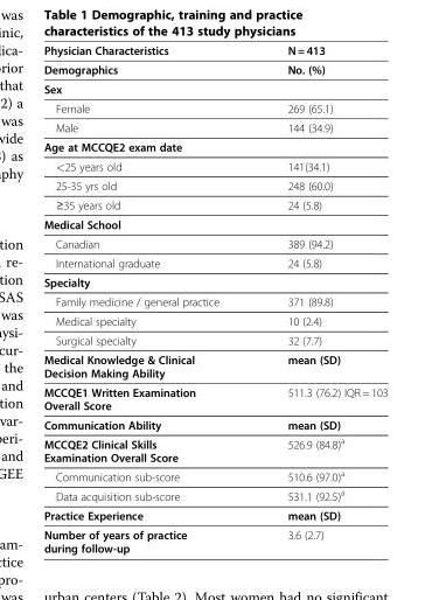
<table><thead><tr><td>Physician Characteristics</td><td>N = 413</td></tr></thead><tbody><tr><td>Demographics</td><td>No. (%)</td></tr><tr><td colspan="2">Sex</td></tr><tr><td>Female</td><td>269 (65.1)</td></tr><tr><td>Male</td><td>144 (34.9)</td></tr><tr><td colspan="2">Age at MCCQE2 exam date</td></tr><tr><td>&lt;25 years old</td><td>141(34.1)</td></tr><tr><td>25-35 yrs old</td><td>248 (60.0)</td></tr><tr><td>≥35 years old</td><td>24 (5.8)</td></tr><tr><td colspan="2">Medical School</td></tr><tr><td>Canadian</td><td>389 (94.2)</td></tr><tr><td>International graduate</td><td>24 (5.8)</td></tr><tr><td colspan="2">Specialty</td></tr><tr><td>Family medicine / general practice</td><td>371 (89.8)</td></tr><tr><td>Medical specialty</td><td>10 (2.4)</td></tr><tr><td>Surgical specialty</td><td>32 (7.7)</td></tr><tr><td>Medical Knowledge &amp; Clinical Decision Making Ability</td><td>mean (SD)</td></tr><tr><td>MCCQE1 Written Examination Overall Score</td><td>511.3 (76.2) IQR = 103</td></tr><tr><td>Communication Ability</td><td>mean (SD)</td></tr><tr><td>MCCQE2 Clinical Skills Examination Overall Score</td><td>526.9 (84.8)<sup>a</sup></td></tr><tr><td>Communication sub-score</td><td>510.6 (97.0)<sup>a</sup></td></tr><tr><td>Data acquisition sub-score</td><td>531.1 (92.5)<sup>a</sup></td></tr><tr><td>Practice Experience</td><td>mean (SD)</td></tr><tr><td>Number of years of practice during follow-up</td><td>3.6 (2.7)</td></tr></tbody></table>